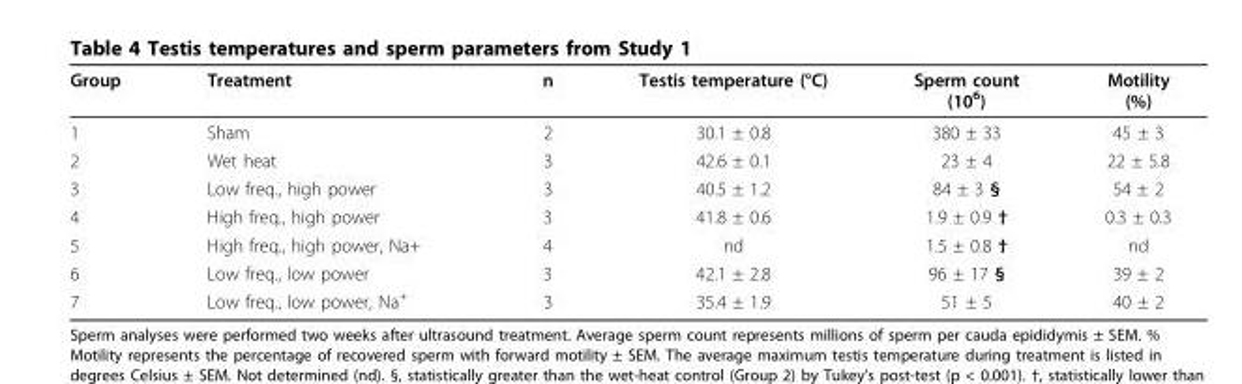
<table><thead><tr><td>Group</td><td>Treatment</td><td>n</td><td>Testis temperature (°C)</td><td>Sperm count (10<sup>6</sup>)</td><td>Motility (%)</td></tr></thead><tbody><tr><td>1</td><td>Sham</td><td>2</td><td>30.1 ± 0.8</td><td>380 ± 33</td><td>45 ± 3</td></tr><tr><td>2</td><td>Wet heat</td><td>3</td><td>42.6 ± 0.1</td><td>23 ± 4</td><td>22 ± 5.8</td></tr><tr><td>3</td><td>Low freq., high power</td><td>3</td><td>40.5 ± 1.2</td><td>84 ± 3 §</td><td>54 ± 2</td></tr><tr><td>4</td><td>High freq., high power</td><td>3</td><td>41.8 ± 0.6</td><td>1.9 ± 0.9 †</td><td>0.3 ± 0.3</td></tr><tr><td>5</td><td>High freq., high power, Na+</td><td>4</td><td>nd</td><td>1.5 ± 0.8 †</td><td>nd</td></tr><tr><td>6</td><td>Low freq., low power</td><td>3</td><td>42.1 ± 2.8</td><td>96 ± 17 §</td><td>39 ± 2</td></tr><tr><td>7</td><td>Low freq., low power, Na<sup>+</sup></td><td>3</td><td>35.4 ± 1.9</td><td>51 ± 5</td><td>40 ± 2</td></tr></tbody></table>